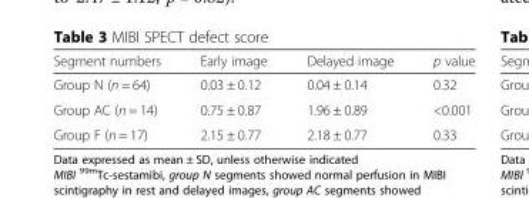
<table><thead><tr><td>Segment numbers</td><td>Early image</td><td>Delayed image</td><td>p value</td></tr></thead><tbody><tr><td>Group N (n = 64)</td><td>0.03 ± 0.12</td><td>0.04 ± 0.14</td><td>0.32</td></tr><tr><td>Group AC (n = 14)</td><td>0.75 ± 0.87</td><td>1.96 ± 0.89</td><td>&lt;0.001</td></tr><tr><td>Group F (n = 17)</td><td>2.15 ± 0.77</td><td>2.18 ± 0.77</td><td>0.33</td></tr></tbody></table>